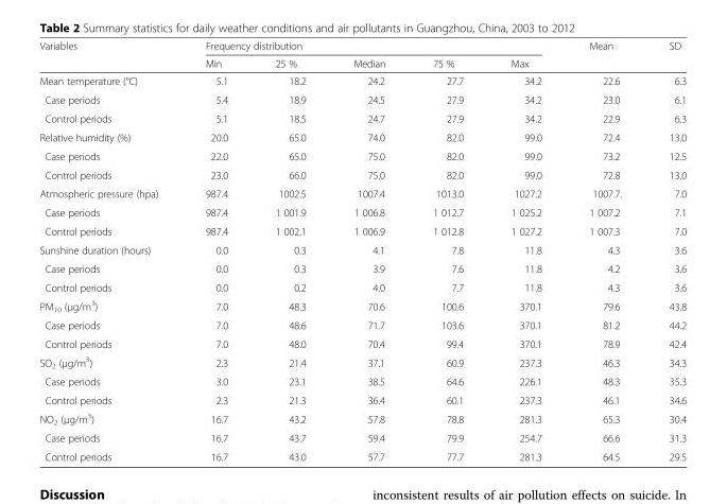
<table><thead><tr><td rowspan="2">Variables</td><td colspan="5">Frequency distribution</td><td rowspan="2">Mean</td><td rowspan="2">SD</td></tr><tr><td>Min</td><td>25 %</td><td>Median</td><td>75 %</td><td>Max</td></tr></thead><tbody><tr><td>Mean temperature (°C)</td><td>5.1</td><td>18.2</td><td>24.2</td><td>27.7</td><td>34.2</td><td>22.6</td><td>6.3</td></tr><tr><td>Case periods</td><td>5.4</td><td>18.9</td><td>24.5</td><td>27.9</td><td>34.2</td><td>23.0</td><td>6.1</td></tr><tr><td>Control periods</td><td>5.1</td><td>18.5</td><td>24.7</td><td>27.9</td><td>34.2</td><td>22.9</td><td>6.3</td></tr><tr><td>Relative humidity (%)</td><td>20.0</td><td>65.0</td><td>74.0</td><td>82.0</td><td>99.0</td><td>72.4</td><td>13.0</td></tr><tr><td>Case periods</td><td>22.0</td><td>65.0</td><td>75.0</td><td>82.0</td><td>99.0</td><td>73.2</td><td>12.5</td></tr><tr><td>Control periods</td><td>23.0</td><td>66.0</td><td>75.0</td><td>82.0</td><td>99.0</td><td>72.8</td><td>13.0</td></tr><tr><td>Atmospheric pressure (hpa)</td><td>987.4</td><td>1002.5</td><td>1007.4</td><td>1013.0</td><td>1027.2</td><td>1007.7.</td><td>7.0</td></tr><tr><td>Case periods</td><td>987.4</td><td>1 001.9</td><td>1 006.8</td><td>1 012.7</td><td>1 025.2</td><td>1 007.2</td><td>7.1</td></tr><tr><td>Control periods</td><td>987.4</td><td>1 002.1</td><td>1 006.9</td><td>1 012.8</td><td>1 027.2</td><td>1 007.3</td><td>7.0</td></tr><tr><td>Sunshine duration (hours)</td><td>0.0</td><td>0.3</td><td>4.1</td><td>7.8</td><td>11.8</td><td>4.3</td><td>3.6</td></tr><tr><td>Case periods</td><td>0.0</td><td>0.3</td><td>3.9</td><td>7.6</td><td>11.8</td><td>4.2</td><td>3.6</td></tr><tr><td>Control periods</td><td>0.0</td><td>0.2</td><td>4.0</td><td>7.7</td><td>11.8</td><td>4.3</td><td>3.6</td></tr><tr><td>PM<sub>10</sub> (μg/m<sup>3</sup>)</td><td>7.0</td><td>48.3</td><td>70.6</td><td>100.6</td><td>370.1</td><td>79.6</td><td>43.8</td></tr><tr><td>Case periods</td><td>7.0</td><td>48.6</td><td>71.7</td><td>103.6</td><td>370.1</td><td>81.2</td><td>44.2</td></tr><tr><td>Control periods</td><td>7.0</td><td>48.0</td><td>70.4</td><td>99.4</td><td>370.1</td><td>78.9</td><td>42.4</td></tr><tr><td>SO<sub>2</sub> (μg/m<sup>3</sup>)</td><td>2.3</td><td>21.4</td><td>37.1</td><td>60.9</td><td>237.3</td><td>46.3</td><td>34.3</td></tr><tr><td>Case periods</td><td>3.0</td><td>23.1</td><td>38.5</td><td>64.6</td><td>226.1</td><td>48.3</td><td>35.3</td></tr><tr><td>Control periods</td><td>2.3</td><td>21.3</td><td>36.4</td><td>60.1</td><td>237.3</td><td>46.1</td><td>34.6</td></tr><tr><td>NO<sub>2</sub> (μg/m<sup>3</sup>)</td><td>16.7</td><td>43.2</td><td>57.8</td><td>78.8</td><td>281.3</td><td>65.3</td><td>30.4</td></tr><tr><td>Case periods</td><td>16.7</td><td>43.7</td><td>59.4</td><td>79.9</td><td>254.7</td><td>66.6</td><td>31.3</td></tr><tr><td>Control periods</td><td>16.7</td><td>43.0</td><td>57.7</td><td>77.7</td><td>281.3</td><td>64.5</td><td>29.5</td></tr></tbody></table>